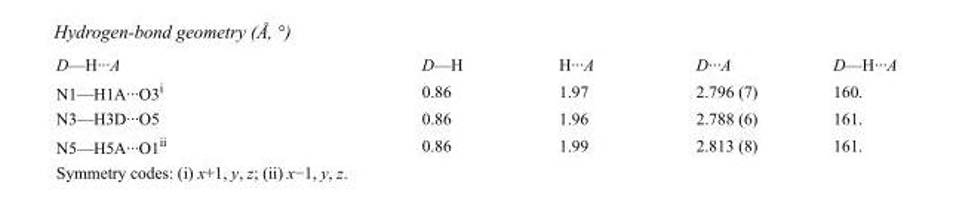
<table><tbody><tr><td>D—H···A</td><td>D—H</td><td>H···A</td><td>D···A</td><td>D—H···A</td></tr><tr><td>N1—H1A···O3<sup>i</sup></td><td>0.86</td><td>1.97</td><td>2.796 (7)</td><td>160.</td></tr><tr><td>N3—H3D···O5</td><td>0.86</td><td>1.96</td><td>2.788 (6)</td><td>161.</td></tr><tr><td>N5—H5A···O1<sup>ii</sup></td><td>0.86</td><td>1.99</td><td>2.813 (8)</td><td>161.</td></tr></tbody></table>